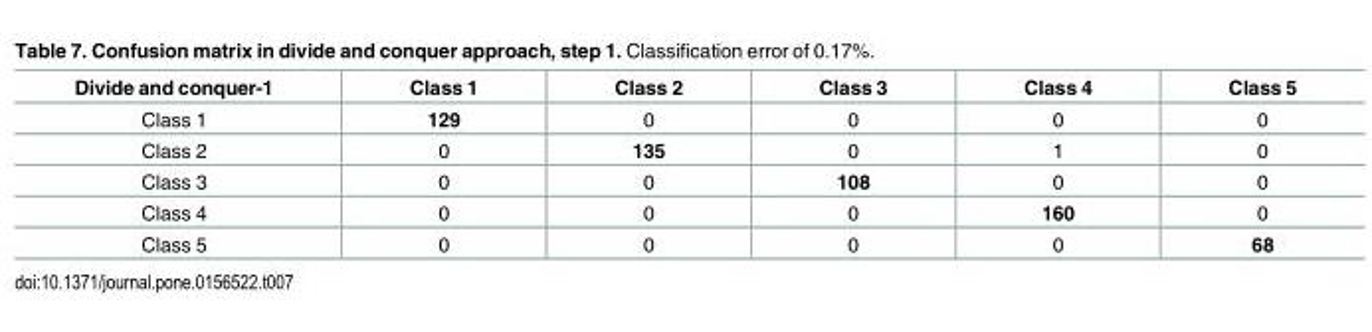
<table><thead><tr><td>Divide and conquer-1</td><td>Class 1</td><td>Class 2</td><td>Class 3</td><td>Class 4</td><td>Class 5</td></tr></thead><tbody><tr><td>Class 1</td><td>129</td><td>0</td><td>0</td><td>0</td><td>0</td></tr><tr><td>Class 2</td><td>0</td><td>135</td><td>0</td><td>1</td><td>0</td></tr><tr><td>Class 3</td><td>0</td><td>0</td><td>108</td><td>0</td><td>0</td></tr><tr><td>Class 4</td><td>0</td><td>0</td><td>0</td><td>160</td><td>0</td></tr><tr><td>Class 5</td><td>0</td><td>0</td><td>0</td><td>0</td><td>68</td></tr></tbody></table>